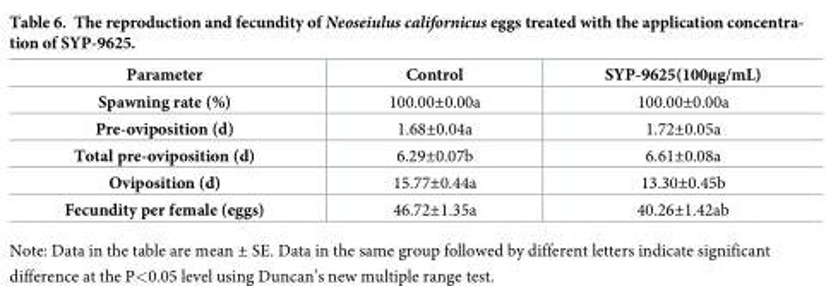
<table><thead><tr><td>Parameter</td><td>Control</td><td>SYP-9625(100μg/mL)</td></tr></thead><tbody><tr><td>Spawning rate (%)</td><td>100.00±0.00a</td><td>100.00±0.00a</td></tr><tr><td>Pre-oviposition (d)</td><td>1.68±0.04a</td><td>1.72±0.05a</td></tr><tr><td>Total pre-oviposition (d)</td><td>6.29±0.07b</td><td>6.61±0.08a</td></tr><tr><td>Oviposition (d)</td><td>15.77±0.44a</td><td>13.30±0.45b</td></tr><tr><td>Fecundity per female (eggs)</td><td>46.72±1.35a</td><td>40.26±1.42ab</td></tr></tbody></table>